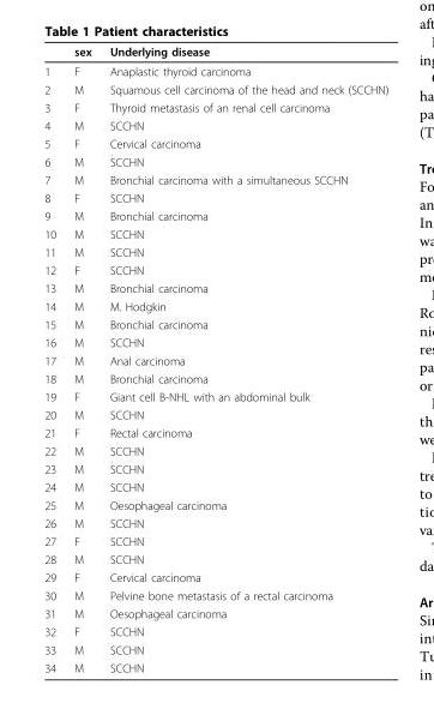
<table><thead><tr><td></td><td>sex</td><td>Underlying disease</td></tr></thead><tbody><tr><td>1</td><td>F</td><td>Anaplastic thyroid carcinoma</td></tr><tr><td>2</td><td>M</td><td>Squamous cell carcinoma of the head and neck (SCCHN)</td></tr><tr><td>3</td><td>F</td><td>Thyroid metastasis of an renal cell carcinoma</td></tr><tr><td>4</td><td>M</td><td>SCCHN</td></tr><tr><td>5</td><td>F</td><td>Cervical carcinoma</td></tr><tr><td>6</td><td>M</td><td>SCCHN</td></tr><tr><td>7</td><td>M</td><td>Bronchial carcinoma with a simultaneous SCCHN</td></tr><tr><td>8</td><td>F</td><td>SCCHN</td></tr><tr><td>9</td><td>M</td><td>Bronchial carcinoma</td></tr><tr><td>10</td><td>M</td><td>SCCHN</td></tr><tr><td>11</td><td>M</td><td>SCCHN</td></tr><tr><td>12</td><td>F</td><td>SCCHN</td></tr><tr><td>13</td><td>M</td><td>Bronchial carcinoma</td></tr><tr><td>14</td><td>M</td><td>M. Hodgkin</td></tr><tr><td>15</td><td>M</td><td>Bronchial carcinoma</td></tr><tr><td>16</td><td>M</td><td>SCCHN</td></tr><tr><td>17</td><td>M</td><td>Anal carcinoma</td></tr><tr><td>18</td><td>M</td><td>Bronchial carcinoma</td></tr><tr><td>19</td><td>F</td><td>Giant cell B-NHL with an abdominal bulk</td></tr><tr><td>20</td><td>M</td><td>SCCHN</td></tr><tr><td>21</td><td>F</td><td>Rectal carcinoma</td></tr><tr><td>22</td><td>M</td><td>SCCHN</td></tr><tr><td>23</td><td>M</td><td>SCCHN</td></tr><tr><td>24</td><td>M</td><td>SCCHN</td></tr><tr><td>25</td><td>M</td><td>Oesophageal carcinoma</td></tr><tr><td>26</td><td>M</td><td>SCCHN</td></tr><tr><td>27</td><td>F</td><td>SCCHN</td></tr><tr><td>28</td><td>M</td><td>SCCHN</td></tr><tr><td>29</td><td>F</td><td>Cervical carcinoma</td></tr><tr><td>30</td><td>M</td><td>Pelvine bone metastasis of a rectal carcinoma</td></tr><tr><td>31</td><td>M</td><td>Oesophageal carcinoma</td></tr><tr><td>32</td><td>F</td><td>SCCHN</td></tr><tr><td>33</td><td>M</td><td>SCCHN</td></tr><tr><td>34</td><td>M</td><td>SCCHN</td></tr></tbody></table>